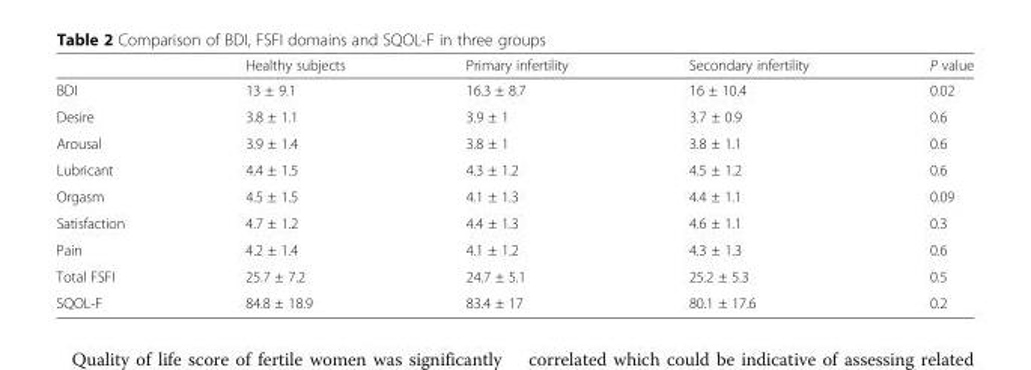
<table><thead><tr><td></td><td>Healthy subjects</td><td>Primary infertility</td><td>Secondary infertility</td><td>P value</td></tr></thead><tbody><tr><td>BDI</td><td>13 ± 9.1</td><td>16.3 ± 8.7</td><td>16 ± 10.4</td><td>0.02</td></tr><tr><td>Desire</td><td>3.8 ± 1.1</td><td>3.9 ± 1</td><td>3.7 ± 0.9</td><td>0.6</td></tr><tr><td>Arousal</td><td>3.9 ± 1.4</td><td>3.8 ± 1</td><td>3.8 ± 1.1</td><td>0.6</td></tr><tr><td>Lubricant</td><td>4.4 ± 1.5</td><td>4.3 ± 1.2</td><td>4.5 ± 1.2</td><td>0.6</td></tr><tr><td>Orgasm</td><td>4.5 ± 1.5</td><td>4.1 ± 1.3</td><td>4.4 ± 1.1</td><td>0.09</td></tr><tr><td>Satisfaction</td><td>4.7 ± 1.2</td><td>4.4 ± 1.3</td><td>4.6 ± 1.1</td><td>0.3</td></tr><tr><td>Pain</td><td>4.2 ± 1.4</td><td>4.1 ± 1.2</td><td>4.3 ± 1.3</td><td>0.6</td></tr><tr><td>Total FSFI</td><td>25.7 ± 7.2</td><td>24.7 ± 5.1</td><td>25.2 ± 5.3</td><td>0.5</td></tr><tr><td>SQOL-F</td><td>84.8 ± 18.9</td><td>83.4 ± 17</td><td>80.1 ± 17.6</td><td>0.2</td></tr></tbody></table>